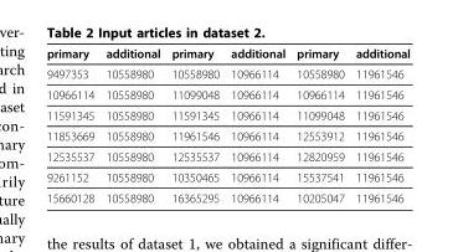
<table><thead><tr><td>primary</td><td>additional</td><td>primary</td><td>additional</td><td>primary</td><td>additional</td></tr></thead><tbody><tr><td>9497353</td><td>10558980</td><td>10558980</td><td>10966114</td><td>10558980</td><td>11961546</td></tr><tr><td>10966114</td><td>10558980</td><td>11099048</td><td>10966114</td><td>10966114</td><td>11961546</td></tr><tr><td>11591345</td><td>10558980</td><td>11591345</td><td>10966114</td><td>11099048</td><td>11961546</td></tr><tr><td>11853669</td><td>10558980</td><td>11961546</td><td>10966114</td><td>12553912</td><td>11961546</td></tr><tr><td>12535537</td><td>10558980</td><td>12535537</td><td>10966114</td><td>12820959</td><td>11961546</td></tr><tr><td>9261152</td><td>10558980</td><td>10350465</td><td>10966114</td><td>15537541</td><td>11961546</td></tr><tr><td>15660128</td><td>10558980</td><td>16365295</td><td>10966114</td><td>10205047</td><td>11961546</td></tr></tbody></table>